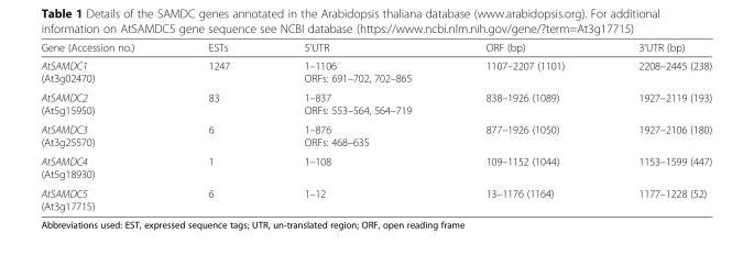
<table><thead><tr><td>Gene (Accession no.)</td><td>ESTs</td><td>5’UTR</td><td>ORF (bp)</td><td>3’UTR (bp)</td></tr></thead><tbody><tr><td>AtSAMDC1 (At3g02470)</td><td>1247</td><td>1–1106 ORFs: 691–702, 702–865</td><td>1107–2207 (1101)</td><td>2208–2445 (238)</td></tr><tr><td>AtSAMDC2 (At5g15950)</td><td>83</td><td>1–837 ORFs: 553–564, 564–719</td><td>838–1926 (1089)</td><td>1927–2119 (193)</td></tr><tr><td>AtSAMDC3 (At3g25570)</td><td>6</td><td>1–876 ORFs: 468–635</td><td>877–1926 (1050)</td><td>1927–2106 (180)</td></tr><tr><td>AtSAMDC4 (At5g18930)</td><td>1</td><td>1–108</td><td>109–1152 (1044)</td><td>1153–1599 (447)</td></tr><tr><td>AtSAMDC5 (At3g17715)</td><td>6</td><td>1–12</td><td>13–1176 (1164)</td><td>1177–1228 (52)</td></tr></tbody></table>